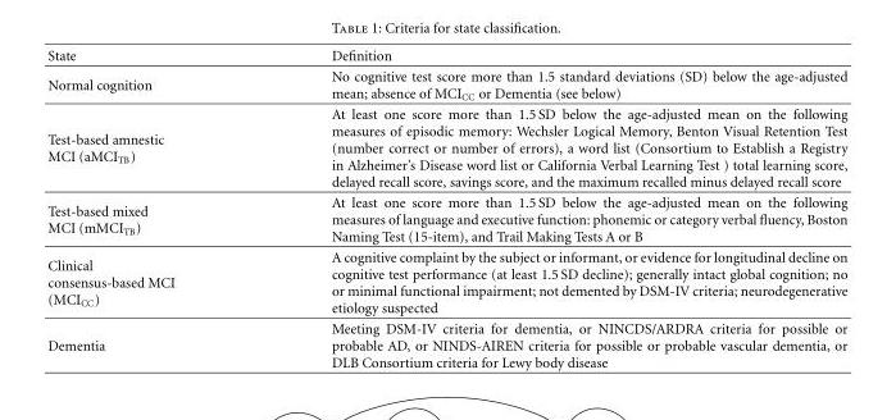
<table><thead><tr><td>State</td><td>Definition</td></tr></thead><tbody><tr><td>Normal cognition</td><td>No cognitive test score more than 1.5 standard deviations (SD) below the age-adjusted mean; absence of MCI<sub>CC</sub> or Dementia (see below)</td></tr><tr><td>Test-based amnestic MCI (aMCI<sub>TB</sub>)</td><td>At least one score more than 1.5 SD below the age-adjusted mean on the following measures of episodic memory: Wechsler Logical Memory, Benton Visual Retention Test (number correct or number of errors), a word list (Consortium to Establish a Registry in Alzheimer’s Disease word list or California Verbal Learning Test ) total learning score, delayed recall score, savings score, and the maximum recalled minus delayed recall score</td></tr><tr><td>Test-based mixed MCI (mMCI<sub>TB</sub>)</td><td>At least one score more than 1.5 SD below the age-adjusted mean on the following measures of language and executive function: phonemic or category verbal fluency, Boston Naming Test (15-item), and Trail Making Tests A or B</td></tr><tr><td>Clinical consensus-based MCI (MCI<sub>CC</sub>)</td><td>A cognitive complaint by the subject or informant, or evidence for longitudinal decline on cognitive test performance (at least 1.5 SD decline); generally intact global cognition; no or minimal functional impairment; not demented by DSM-IV criteria; neurodegenerative etiology suspected</td></tr><tr><td>Dementia</td><td>Meeting DSM-IV criteria for dementia, or NINCDS/ARDRA criteria for possible or probable AD, or NINDS-AIREN criteria for possible or probable vascular dementia, or DLB Consortium criteria for Lewy body disease</td></tr></tbody></table>